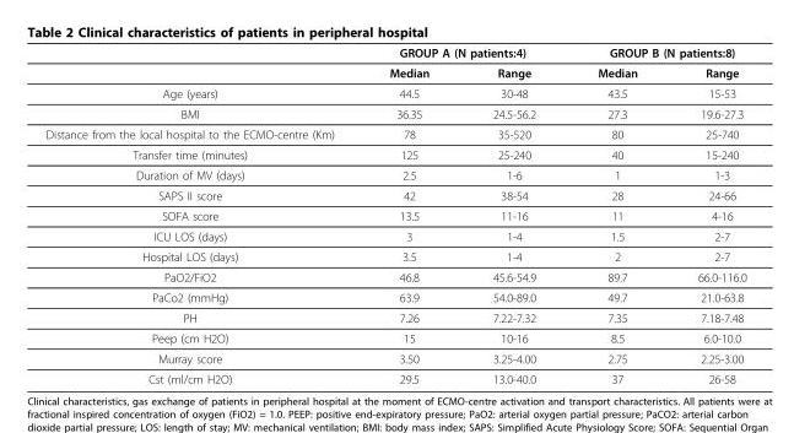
<table><thead><tr><td rowspan="2"></td><td colspan="2">GROUP A (N patients:4)</td><td colspan="2">GROUP B (N patients:8)</td></tr><tr><td>Median</td><td>Range</td><td>Median</td><td>Range</td></tr></thead><tbody><tr><td>Age (years)</td><td>44.5</td><td>30-48</td><td>43.5</td><td>15-53</td></tr><tr><td>BMI</td><td>36.35</td><td>24.5-56.2</td><td>27.3</td><td>19.6-27.3</td></tr><tr><td>Distance from the local hospital to the ECMO-centre (Km)</td><td>78</td><td>35-520</td><td>80</td><td>25-740</td></tr><tr><td>Transfer time (minutes)</td><td>125</td><td>25-240</td><td>40</td><td>15-240</td></tr><tr><td>Duration of MV (days)</td><td>2.5</td><td>1-6</td><td>1</td><td>1-3</td></tr><tr><td>SAPS II score</td><td>42</td><td>38-54</td><td>28</td><td>24-66</td></tr><tr><td>SOFA score</td><td>13.5</td><td>11-16</td><td>11</td><td>4-16</td></tr><tr><td>ICU LOS (days)</td><td>3</td><td>1-4</td><td>1.5</td><td>2-7</td></tr><tr><td>Hospital LOS (days)</td><td>3.5</td><td>1-4</td><td>2</td><td>2-7</td></tr><tr><td>PaO2/FiO2</td><td>46.8</td><td>45.6-54.9</td><td>89.7</td><td>66.0-116.0</td></tr><tr><td>PaCo2 (mmHg)</td><td>63.9</td><td>54.0-89.0</td><td>49.7</td><td>21.0-63.8</td></tr><tr><td>PH</td><td>7.26</td><td>7.22-7.32</td><td>7.35</td><td>7.18-7.48</td></tr><tr><td>Peep (cm H2O)</td><td>15</td><td>10-16</td><td>8.5</td><td>6.0-10.0</td></tr><tr><td>Murray score</td><td>3.50</td><td>3.25-4.00</td><td>2.75</td><td>2.25-3.00</td></tr><tr><td>Cst (ml/cm H2O)</td><td>29.5</td><td>13.0-40.0</td><td>37</td><td>26-58</td></tr></tbody></table>